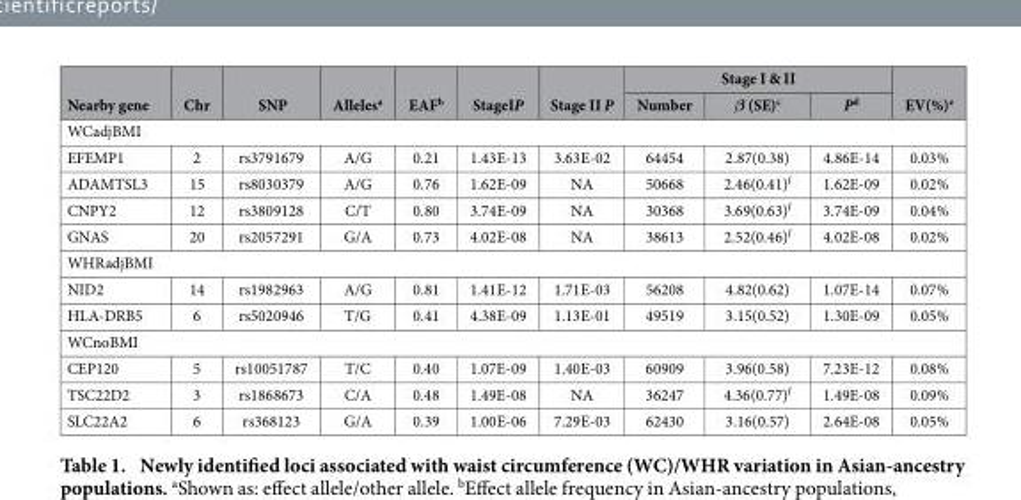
<table><thead><tr><td rowspan="2">Nearby gene</td><td rowspan="2">Chr</td><td rowspan="2">SNP</td><td rowspan="2">Alleles<sup>a</sup></td><td rowspan="2">EAF<sup>b</sup></td><td rowspan="2">StageIP</td><td rowspan="2">Stage II P</td><td colspan="3">Stage I &amp; II</td><td rowspan="2">EV(%)<sup>e</sup></td></tr><tr><td>Number</td><td>β (SE)<sup>c</sup></td><td>P<sup>d</sup></td></tr></thead><tbody><tr><td colspan="11">WCadjBMI</td></tr><tr><td>EFEMP1</td><td>2</td><td>rs3791679</td><td>A/G</td><td>0.21</td><td>1.43E-13</td><td>3.63E-02</td><td>64454</td><td>2.87(0.38)</td><td>4.86E-14</td><td>0.03%</td></tr><tr><td>ADAMTSL3</td><td>15</td><td>rs8030379</td><td>A/G</td><td>0.76</td><td>1.62E-09</td><td>NA</td><td>50668</td><td>2.46(0.41)<sup>f</sup></td><td>1.62E-09</td><td>0.02%</td></tr><tr><td>CNPY2</td><td>12</td><td>rs3809128</td><td>C/T</td><td>0.80</td><td>3.74E-09</td><td>NA</td><td>30368</td><td>3.69(0.63)<sup>f</sup></td><td>3.74E-09</td><td>0.04%</td></tr><tr><td>GNAS</td><td>20</td><td>rs2057291</td><td>G/A</td><td>0.73</td><td>4.02E-08</td><td>NA</td><td>38613</td><td>2.52(0.46)<sup>f</sup></td><td>4.02E-08</td><td>0.02%</td></tr><tr><td colspan="11">WHRadjBMI</td></tr><tr><td>NID2</td><td>14</td><td>rs1982963</td><td>A/G</td><td>0.81</td><td>1.41E-12</td><td>1.71E-03</td><td>56208</td><td>4.82(0.62)</td><td>1.07E-14</td><td>0.07%</td></tr><tr><td>HLA-DRB5</td><td>6</td><td>rs5020946</td><td>T/G</td><td>0.41</td><td>4.38E-09</td><td>1.13E-01</td><td>49519</td><td>3.15(0.52)</td><td>1.30E-09</td><td>0.05%</td></tr><tr><td colspan="11">WCnoBMI</td></tr><tr><td>CEP120</td><td>5</td><td>rs10051787</td><td>T/C</td><td>0.40</td><td>1.07E-09</td><td>1.40E-03</td><td>60909</td><td>3.96(0.58)</td><td>7.23E-12</td><td>0.08%</td></tr><tr><td>TSC22D2</td><td>3</td><td>rs1868673</td><td>C/A</td><td>0.48</td><td>1.49E-08</td><td>NA</td><td>36247</td><td>4.36(0.77)<sup>f</sup></td><td>1.49E-08</td><td>0.09%</td></tr><tr><td>SLC22A2</td><td>6</td><td>rs368123</td><td>G/A</td><td>0.39</td><td>1.00E-06</td><td>7.29E-03</td><td>62430</td><td>3.16(0.57)</td><td>2.64E-08</td><td>0.05%</td></tr></tbody></table>